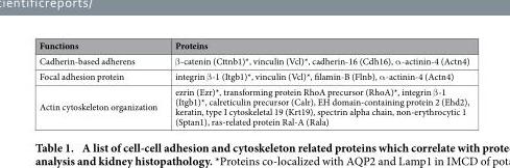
<table><thead><tr><td>Functions</td><td>Proteins</td></tr></thead><tbody><tr><td>Cadherin-based adherens</td><td>β -catenin (Cttnb1)*, vinculin (Vcl)*, cadherin-16 (Cdh16), α -actinin-4 (Actn4)</td></tr><tr><td>Focal adhesion protein</td><td>integrin β -1 (Itgb1)*, vinculin (Vcl)*, filamin-B (Flnb), α -actinin-4 (Actn4)</td></tr><tr><td>Actin cytoskeleton organization</td><td>ezrin (Ezr)*, transforming protein RhoA precursor (RhoA)*, integrin β -1 (Itgb1)*, calreticulin precursor (Calr), EH domain-containing protein 2 (Ehd2), keratin, type I cytoskeletal 19 (Krt19), spectrin alpha chain, non-erythrocytic 1 (Sptan1), ras-related protein Ral-A (Rala)</td></tr></tbody></table>